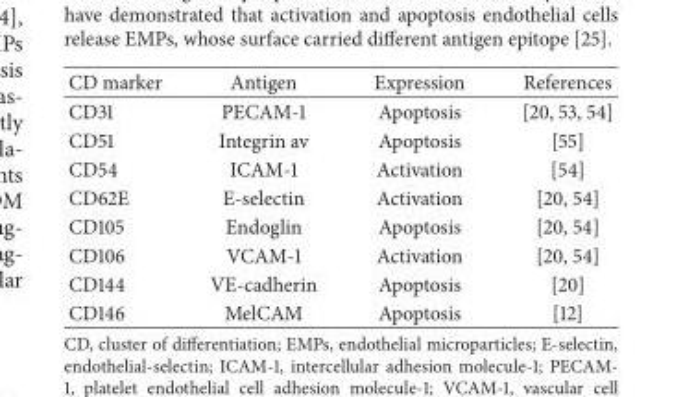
<table><thead><tr><td>CD marker</td><td>Antigen</td><td>Expression</td><td>References</td></tr></thead><tbody><tr><td>CD31</td><td>PECAM-1</td><td>Apoptosis</td><td>[20, 53, 54]</td></tr><tr><td>CD51</td><td>Integrin av</td><td>Apoptosis</td><td>[55]</td></tr><tr><td>CD54</td><td>ICAM-1</td><td>Activation</td><td>[54]</td></tr><tr><td>CD62E</td><td>E-selectin</td><td>Activation</td><td>[20, 54]</td></tr><tr><td>CD105</td><td>Endoglin</td><td>Apoptosis</td><td>[20, 54]</td></tr><tr><td>CD106</td><td>VCAM-1</td><td>Activation</td><td>[20, 54]</td></tr><tr><td>CD144</td><td>VE-cadherin</td><td>Apoptosis</td><td>[20]</td></tr><tr><td>CD146</td><td>MelCAM</td><td>Apoptosis</td><td>[12]</td></tr></tbody></table>